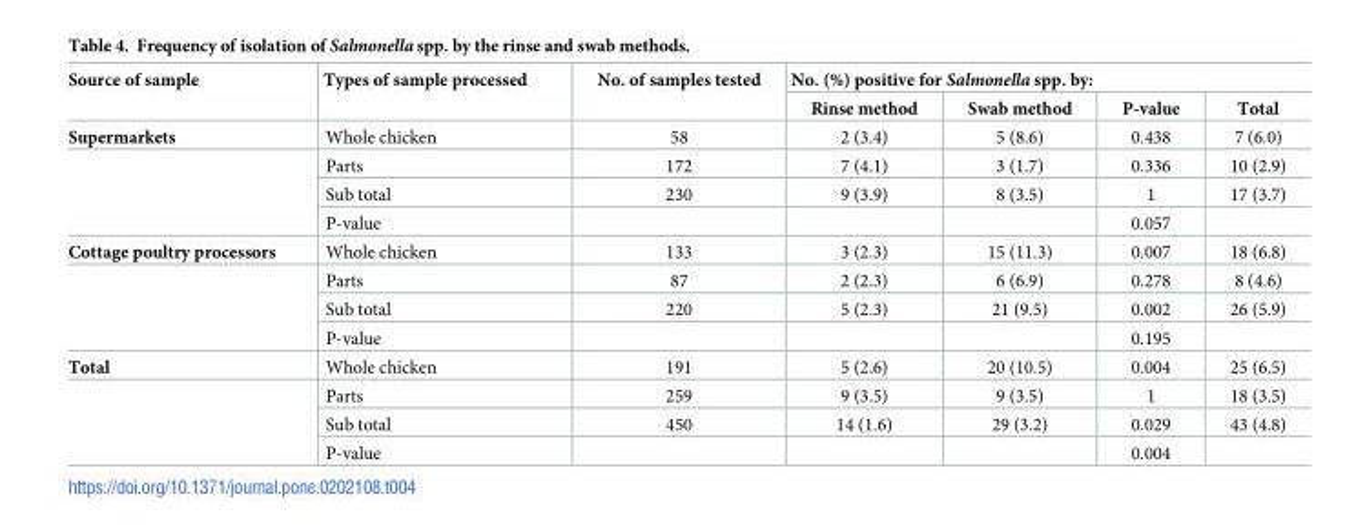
<table><thead><tr><td rowspan="2">Source of sample</td><td rowspan="2">Types of sample processed</td><td rowspan="2">No. of samples tested</td><td colspan="4">No. (%) positive for Salmonella spp. by:</td></tr><tr><td>Rinse method</td><td>Swab method</td><td>P-value</td><td>Total</td></tr></thead><tbody><tr><td rowspan="4">Supermarkets</td><td>Whole chicken</td><td>58</td><td>2 (3.4)</td><td>5 (8.6)</td><td>0.438</td><td>7 (6.0)</td></tr><tr><td>Parts</td><td>172</td><td>7 (4.1)</td><td>3 (1.7)</td><td>0.336</td><td>10 (2.9)</td></tr><tr><td>Sub total</td><td>230</td><td>9 (3.9)</td><td>8 (3.5)</td><td>1</td><td>17 (3.7)</td></tr><tr><td>P-value</td><td></td><td></td><td></td><td>0.057</td><td></td></tr><tr><td rowspan="4">Cottage poultry processors</td><td>Whole chicken</td><td>133</td><td>3 (2.3)</td><td>15 (11.3)</td><td>0.007</td><td>18 (6.8)</td></tr><tr><td>Parts</td><td>87</td><td>2 (2.3)</td><td>6 (6.9)</td><td>0.278</td><td>8 (4.6)</td></tr><tr><td>Sub total</td><td>220</td><td>5 (2.3)</td><td>21 (9.5)</td><td>0.002</td><td>26 (5.9)</td></tr><tr><td>P-value</td><td></td><td></td><td></td><td>0.195</td><td></td></tr><tr><td rowspan="4">Total</td><td>Whole chicken</td><td>191</td><td>5 (2.6)</td><td>20 (10.5)</td><td>0.004</td><td>25 (6.5)</td></tr><tr><td>Parts</td><td>259</td><td>9 (3.5)</td><td>9 (3.5)</td><td>1</td><td>18 (3.5)</td></tr><tr><td>Sub total</td><td>450</td><td>14 (1.6)</td><td>29 (3.2)</td><td>0.029</td><td>43 (4.8)</td></tr><tr><td>P-value</td><td></td><td></td><td></td><td>0.004</td><td></td></tr></tbody></table>